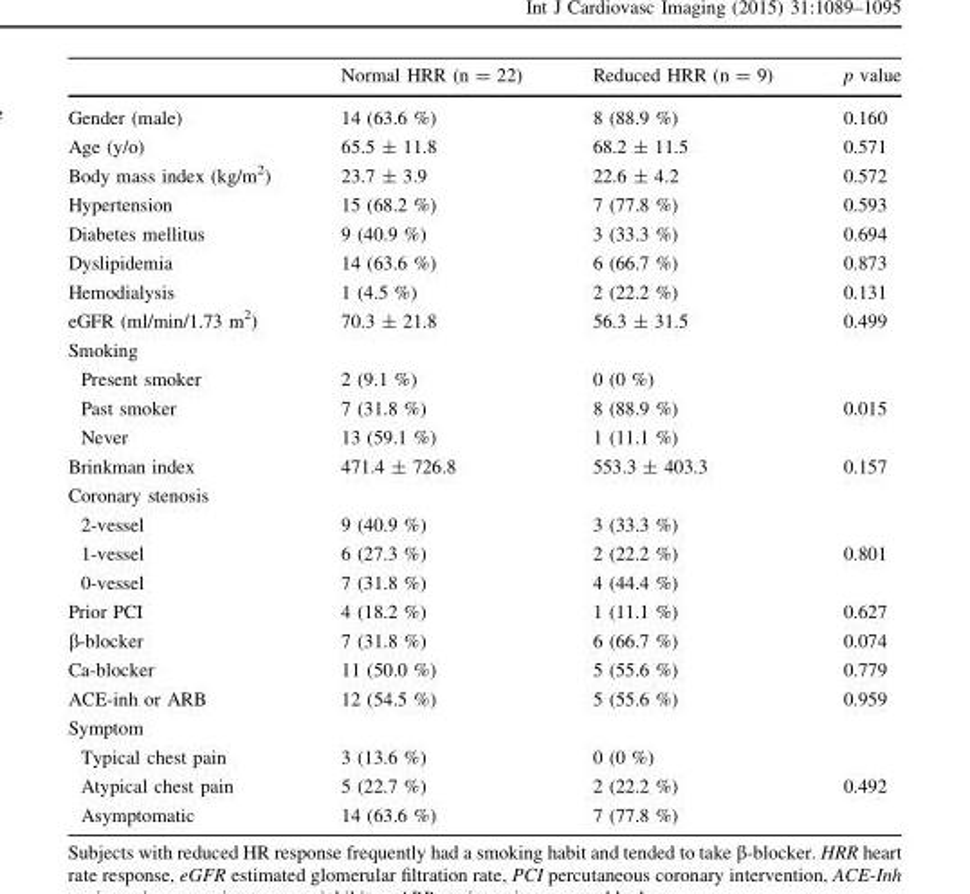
<table><thead><tr><td></td><td>Normal HRR (n = 22)</td><td>Reduced HRR (n = 9)</td><td>p value</td></tr></thead><tbody><tr><td>Gender (male)</td><td>14 (63.6 %)</td><td>8 (88.9 %)</td><td>0.160</td></tr><tr><td>Age (y/o)</td><td>65.5 ± 11.8</td><td>68.2 ± 11.5</td><td>0.571</td></tr><tr><td>Body mass index (kg/m<sup>2</sup>)</td><td>23.7 ± 3.9</td><td>22.6 ± 4.2</td><td>0.572</td></tr><tr><td>Hypertension</td><td>15 (68.2 %)</td><td>7 (77.8 %)</td><td>0.593</td></tr><tr><td>Diabetes mellitus</td><td>9 (40.9 %)</td><td>3 (33.3 %)</td><td>0.694</td></tr><tr><td>Dyslipidemia</td><td>14 (63.6 %)</td><td>6 (66.7 %)</td><td>0.873</td></tr><tr><td>Hemodialysis</td><td>1 (4.5 %)</td><td>2 (22.2 %)</td><td>0.131</td></tr><tr><td>eGFR (ml/min/1.73 m<sup>2</sup>)</td><td>70.3 ± 21.8</td><td>56.3 ± 31.5</td><td>0.499</td></tr><tr><td colspan="4">Smoking</td></tr><tr><td>Present smoker</td><td>2 (9.1 %)</td><td>0 (0 %)</td><td></td></tr><tr><td>Past smoker</td><td>7 (31.8 %)</td><td>8 (88.9 %)</td><td>0.015</td></tr><tr><td>Never</td><td>13 (59.1 %)</td><td>1 (11.1 %)</td><td></td></tr><tr><td>Brinkman index</td><td>471.4 ± 726.8</td><td>553.3 ± 403.3</td><td>0.157</td></tr><tr><td colspan="4">Coronary stenosis</td></tr><tr><td>2-vessel</td><td>9 (40.9 %)</td><td>3 (33.3 %)</td><td></td></tr><tr><td>1-vessel</td><td>6 (27.3 %)</td><td>2 (22.2 %)</td><td>0.801</td></tr><tr><td>0-vessel</td><td>7 (31.8 %)</td><td>4 (44.4 %)</td><td></td></tr><tr><td>Prior PCI</td><td>4 (18.2 %)</td><td>1 (11.1 %)</td><td>0.627</td></tr><tr><td>β-blocker</td><td>7 (31.8 %)</td><td>6 (66.7 %)</td><td>0.074</td></tr><tr><td>Ca-blocker</td><td>11 (50.0 %)</td><td>5 (55.6 %)</td><td>0.779</td></tr><tr><td>ACE-inh or ARB</td><td>12 (54.5 %)</td><td>5 (55.6 %)</td><td>0.959</td></tr><tr><td colspan="4">Symptom</td></tr><tr><td>Typical chest pain</td><td>3 (13.6 %)</td><td>0 (0 %)</td><td></td></tr><tr><td>Atypical chest pain</td><td>5 (22.7 %)</td><td>2 (22.2 %)</td><td>0.492</td></tr><tr><td>Asymptomatic</td><td>14 (63.6 %)</td><td>7 (77.8 %)</td><td></td></tr></tbody></table>